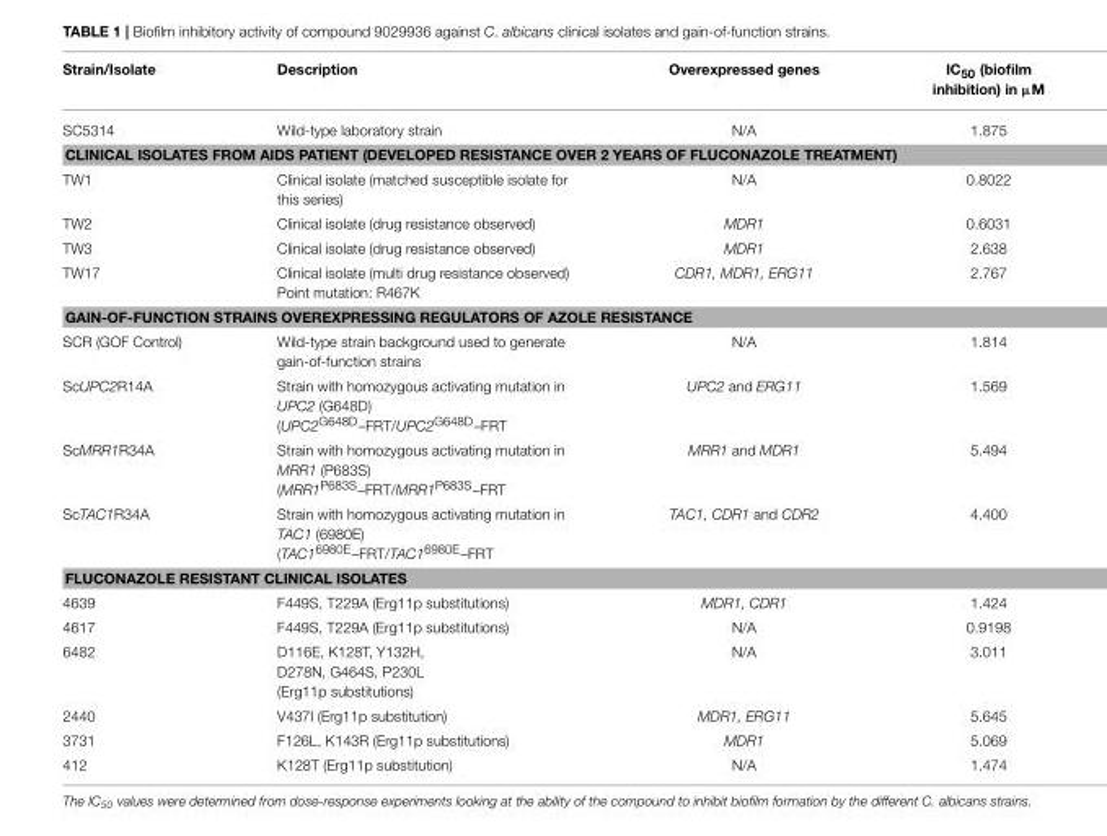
<table><thead><tr><td>Strain/Isolate</td><td>Description</td><td>Overexpressed genes</td><td>IC<sub>50</sub> (biofilm inhibition) in µM</td></tr></thead><tbody><tr><td>SC5314</td><td>Wild-type laboratory strain</td><td>N/A</td><td>1.875</td></tr><tr><td colspan="4">CLINICAL ISOLATES FROM AIDS PATIENT (DEVELOPED RESISTANCE OVER 2 YEARS OF FLUCONAZOLE TREATMENT)</td></tr><tr><td>TW1</td><td>Clinical isolate (matched susceptible isolate for this series)</td><td>N/A</td><td>0.8022</td></tr><tr><td>TW2</td><td>Clinical isolate (drug resistance observed)</td><td>MDR1</td><td>0.6031</td></tr><tr><td>TW3</td><td>Clinical isolate (drug resistance observed)</td><td>MDR1</td><td>2.638</td></tr><tr><td>TW17</td><td>Clinical isolate (multi drug resistance observed) Point mutation: R467K</td><td>CDR1, MDR1, ERG11</td><td>2.767</td></tr><tr><td colspan="4">GAIN-OF-FUNCTION STRAINS OVEREXPRESSING REGULATORS OF AZOLE RESISTANCE</td></tr><tr><td>SCR (GOF Control)</td><td>Wild-type strain background used to generate gain-of-function strains</td><td>N/A</td><td>1.814</td></tr><tr><td>ScUPC2R14A</td><td>Strain with homozygous activating mutation in UPC2 (G648D) (UPC2<sup>G648D</sup>–FRT/UPC2<sup>G648D</sup>–FRT</td><td>UPC2 and ERG11</td><td>1.569</td></tr><tr><td>ScMRR1R34A</td><td>Strain with homozygous activating mutation in MRR1 (P683S) (MRR1<sup>P683S</sup>–FRT/MRR1<sup>P683S</sup>–FRT</td><td>MRR1 and MDR1</td><td>5.494</td></tr><tr><td>ScTAC1R34A</td><td>Strain with homozygous activating mutation in TAC1 (6980E) (TAC1<sup>6980E</sup>–FRT/TAC1<sup>6980E</sup>–FRT</td><td>TAC1, CDR1 and CDR2</td><td>4.400</td></tr><tr><td colspan="4">FLUCONAZOLE RESISTANT CLINICAL ISOLATES</td></tr><tr><td>4639</td><td>F449S, T229A (Erg11p substitutions)</td><td>MDR1, CDR1</td><td>1.424</td></tr><tr><td>4617</td><td>F449S, T229A (Erg11p substitutions)</td><td>N/A</td><td>0.9198</td></tr><tr><td>6482</td><td>D116E, K128T, Y132H, D278N, G464S, P230L (Erg11p substitutions)</td><td>N/A</td><td>3.011</td></tr><tr><td>2440</td><td>V437I (Erg11p substitution)</td><td>MDR1, ERG11</td><td>5.645</td></tr><tr><td>3731</td><td>F126L, K143R (Erg11p substitutions)</td><td>MDR1</td><td>5.069</td></tr><tr><td>412</td><td>K128T (Erg11p substitution)</td><td>N/A</td><td>1.474</td></tr></tbody></table>